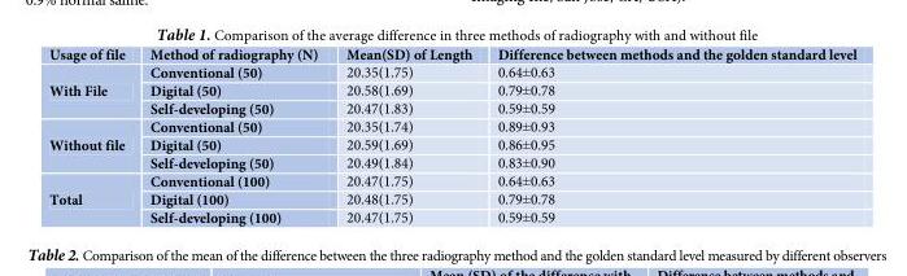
<table><thead><tr><td>Usage of file</td><td>Method of radiography (N)</td><td>Mean(SD) of Length</td><td>Difference between methods and the golden standard level</td></tr></thead><tbody><tr><td rowspan="3">With File</td><td>Conventional (50)</td><td>20.35(1.75)</td><td>0.64±0.63</td></tr><tr><td>Digital (50)</td><td>20.58(1.69)</td><td>0.79±0.78</td></tr><tr><td>Self-developing (50)</td><td>20.47(1.83)</td><td>0.59±0.59</td></tr><tr><td rowspan="3">Without file</td><td>Conventional (50)</td><td>20.35(1.74)</td><td>0.89±0.93</td></tr><tr><td>Digital (50)</td><td>20.59(1.69)</td><td>0.86±0.95</td></tr><tr><td>Self-developing (50)</td><td>20.49(1.84)</td><td>0.83±0.90</td></tr><tr><td rowspan="3">Total</td><td>Conventional (100)</td><td>20.47(1.75)</td><td>0.64±0.63</td></tr><tr><td>Digital (100)</td><td>20.48(1.75)</td><td>0.79±0.78</td></tr><tr><td>Self-developing (100)</td><td>20.47(1.75)</td><td>0.59±0.59</td></tr></tbody></table>